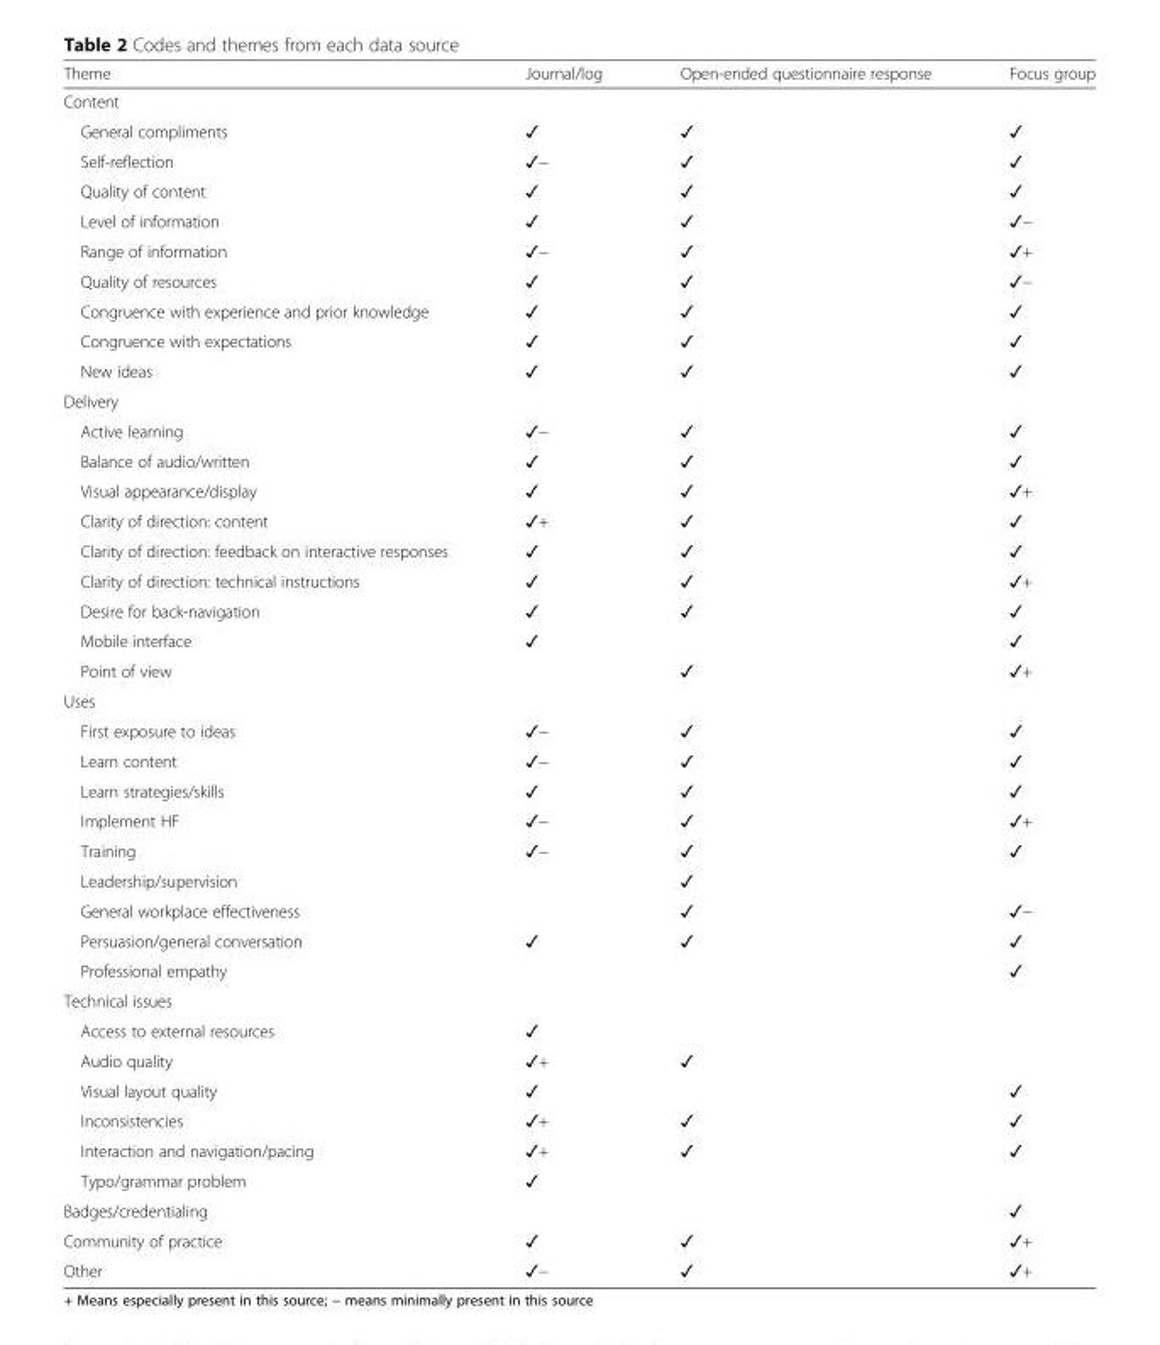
<table><thead><tr><td>Theme</td><td>Journal/log</td><td>Open-ended questionnaire response</td><td>Focus group</td></tr></thead><tbody><tr><td colspan="4">Content</td></tr><tr><td>General compliments</td><td>✓</td><td>✓</td><td>✓</td></tr><tr><td>Self-reflection</td><td>✓−</td><td>✓</td><td>✓</td></tr><tr><td>Quality of content</td><td>✓</td><td>✓</td><td>✓</td></tr><tr><td>Level of information</td><td>✓</td><td>✓</td><td>✓−</td></tr><tr><td>Range of information</td><td>✓−</td><td>✓</td><td>✓+</td></tr><tr><td>Quality of resources</td><td>✓</td><td>✓</td><td>✓−</td></tr><tr><td>Congruence with experience and prior knowledge</td><td>✓</td><td>✓</td><td>✓</td></tr><tr><td>Congruence with expectations</td><td>✓</td><td>✓</td><td>✓</td></tr><tr><td>New ideas</td><td>✓</td><td>✓</td><td>✓</td></tr><tr><td colspan="4">Delivery</td></tr><tr><td>Active learning</td><td>✓−</td><td>✓</td><td>✓</td></tr><tr><td>Balance of audio/written</td><td>✓</td><td>✓</td><td>✓</td></tr><tr><td>Visual appearance/display</td><td>✓</td><td>✓</td><td>✓+</td></tr><tr><td>Clarity of direction: content</td><td>✓+</td><td>✓</td><td>✓</td></tr><tr><td>Clarity of direction: feedback on interactive responses</td><td>✓</td><td>✓</td><td>✓</td></tr><tr><td>Clarity of direction: technical instructions</td><td>✓</td><td>✓</td><td>✓+</td></tr><tr><td>Desire for back-navigation</td><td>✓</td><td>✓</td><td>✓</td></tr><tr><td>Mobile interface</td><td>✓</td><td></td><td>✓</td></tr><tr><td>Point of view</td><td></td><td>✓</td><td>✓+</td></tr><tr><td colspan="4">Uses</td></tr><tr><td>First exposure to ideas</td><td>✓−</td><td>✓</td><td>✓</td></tr><tr><td>Learn content</td><td>✓−</td><td>✓</td><td>✓</td></tr><tr><td>Learn strategies/skills</td><td>✓</td><td>✓</td><td>✓</td></tr><tr><td>Implement HF</td><td>✓−</td><td>✓</td><td>✓+</td></tr><tr><td>Training</td><td>✓−</td><td>✓</td><td>✓</td></tr><tr><td>Leadership/supervision</td><td></td><td>✓</td><td></td></tr><tr><td>General workplace effectiveness</td><td></td><td>✓</td><td>✓−</td></tr><tr><td>Persuasion/general conversation</td><td>✓</td><td>✓</td><td>✓</td></tr><tr><td>Professional empathy</td><td></td><td></td><td>✓</td></tr><tr><td colspan="4">Technical issues</td></tr><tr><td>Access to external resources</td><td>✓</td><td></td><td></td></tr><tr><td>Audio quality</td><td>✓+</td><td>✓</td><td></td></tr><tr><td>Visual layout quality</td><td>✓</td><td></td><td>✓</td></tr><tr><td>Inconsistencies</td><td>✓+</td><td>✓</td><td>✓</td></tr><tr><td>Interaction and navigation/pacing</td><td>✓+</td><td>✓</td><td>✓</td></tr><tr><td>Typo/grammar problem</td><td>✓</td><td></td><td></td></tr><tr><td>Badges/credentialing</td><td></td><td></td><td>✓</td></tr><tr><td>Community of practice</td><td>✓</td><td>✓</td><td>✓+</td></tr><tr><td>Other</td><td>✓−</td><td>✓</td><td>✓+</td></tr></tbody></table>